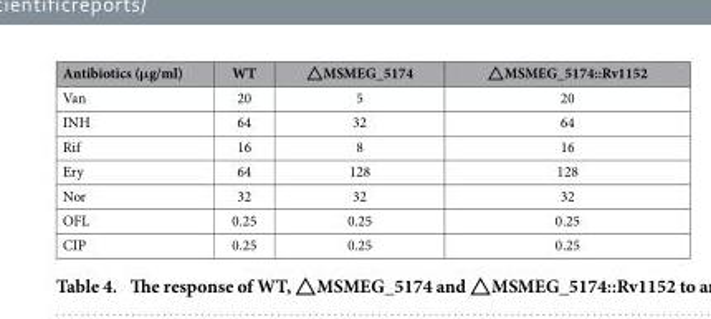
<table><thead><tr><td>Antibiotics (μg/ml)</td><td>WT</td><td>△MSMEG_5174</td><td>△MSMEG_5174::Rv1152</td></tr></thead><tbody><tr><td>Van</td><td>20</td><td>5</td><td>20</td></tr><tr><td>INH</td><td>64</td><td>32</td><td>64</td></tr><tr><td>Rif</td><td>16</td><td>8</td><td>16</td></tr><tr><td>Ery</td><td>64</td><td>128</td><td>128</td></tr><tr><td>Nor</td><td>32</td><td>32</td><td>32</td></tr><tr><td>OFL</td><td>0.25</td><td>0.25</td><td>0.25</td></tr><tr><td>CIP</td><td>0.25</td><td>0.25</td><td>0.25</td></tr></tbody></table>